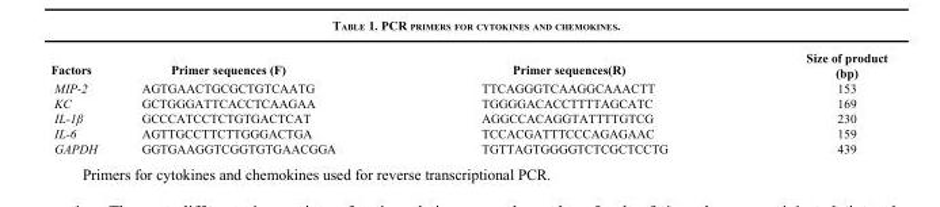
<table><thead><tr><td>Factors</td><td>Primer sequences (F)</td><td>Primer sequences(R)</td><td>Size of product (bp)</td></tr></thead><tbody><tr><td>MIP-2</td><td>AGTGAACTGCGCTGTCAATG</td><td>TTCAGGGTCAAGGCAAACTT</td><td>153</td></tr><tr><td>KC</td><td>GCTGGGATTCACCTCAAGAA</td><td>TGGGGACACCTTTTAGCATC</td><td>169</td></tr><tr><td>IL-1β</td><td>GCCCATCCTCTGTGACTCAT</td><td>AGGCCACAGGTATTTTGTCG</td><td>230</td></tr><tr><td>IL-6</td><td>AGTTGCCTTCTTGGGACTGA</td><td>TCCACGATTTCCCAGAGAAC</td><td>159</td></tr><tr><td>GAPDH</td><td>GGTGAAGGTCGGTGTGAACGGA</td><td>TGTTAGTGGGGTCTCGCTCCTG</td><td>439</td></tr></tbody></table>